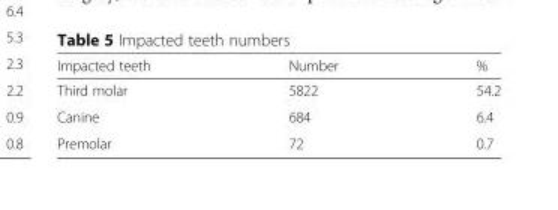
<table><thead><tr><td>Impacted teeth</td><td>Number</td><td>%</td></tr></thead><tbody><tr><td>Third molar</td><td>5822</td><td>54.2</td></tr><tr><td>Canine</td><td>684</td><td>6.4</td></tr><tr><td>Premolar</td><td>72</td><td>0.7</td></tr></tbody></table>